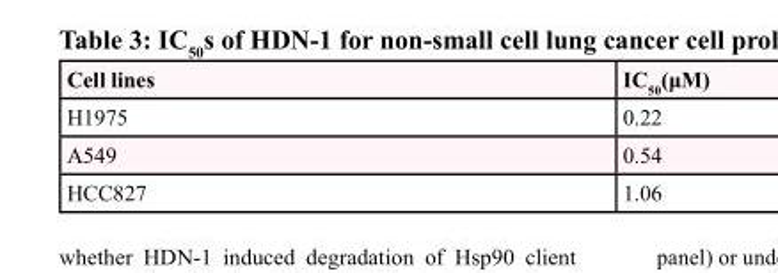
<table><thead><tr><td>Cell lines</td><td>IC<sub>50</sub>(μM)</td></tr></thead><tbody><tr><td>H1975</td><td>0.22</td></tr><tr><td>A549</td><td>0.54</td></tr><tr><td>HCC827</td><td>1.06</td></tr></tbody></table>